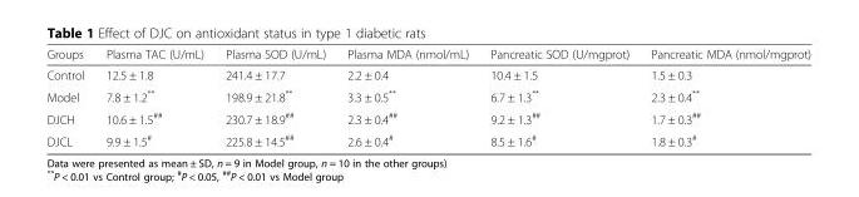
<table><thead><tr><td>Groups</td><td>Plasma TAC (U/mL)</td><td>Plasma SOD (U/mL)</td><td>Plasma MDA (nmol/mL)</td><td>Pancreatic SOD (U/mgprot)</td><td>Pancreatic MDA (nmol/mgprot)</td></tr></thead><tbody><tr><td>Control</td><td>12.5 ± 1.8</td><td>241.4 ± 17.7</td><td>2.2 ± 0.4</td><td>10.4 ± 1.5</td><td>1.5 ± 0.3</td></tr><tr><td>Model</td><td>7.8 ± 1.2**</td><td>198.9 ± 21.8**</td><td>3.3 ± 0.5**</td><td>6.7 ± 1.3**</td><td>2.3 ± 0.4**</td></tr><tr><td>DJCH</td><td>10.6 ± 1.5<sup>##</sup></td><td>230.7 ± 18.9<sup>##</sup></td><td>2.3 ± 0.4<sup>##</sup></td><td>9.2 ± 1.3<sup>##</sup></td><td>1.7 ± 0.3<sup>##</sup></td></tr><tr><td>DJCL</td><td>9.9 ± 1.5<sup>#</sup></td><td>225.8 ± 14.5<sup>##</sup></td><td>2.6 ± 0.4<sup>#</sup></td><td>8.5 ± 1.6<sup>#</sup></td><td>1.8 ± 0.3<sup>#</sup></td></tr></tbody></table>